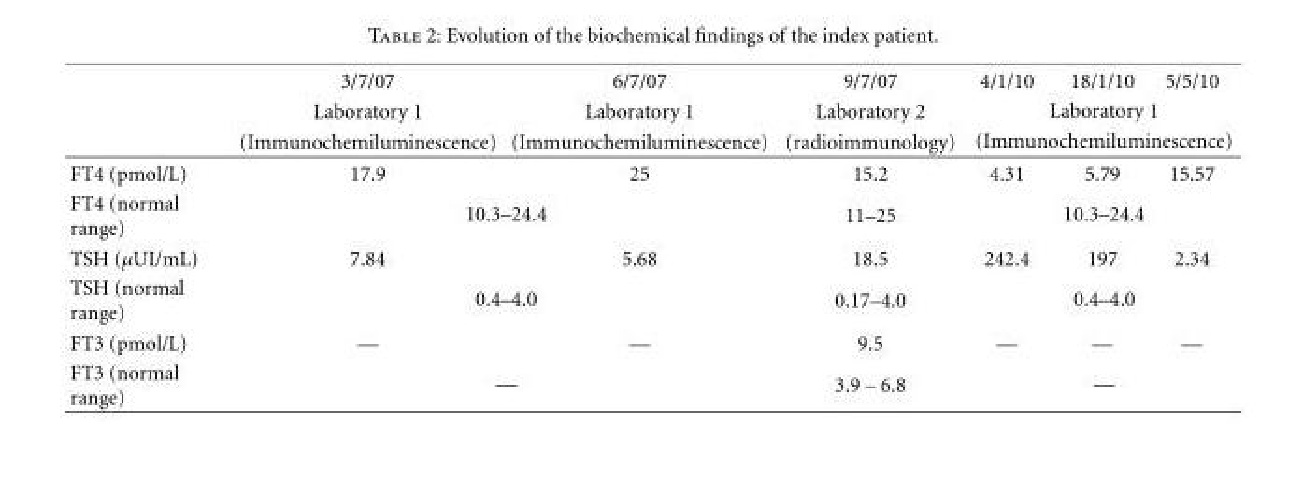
<table><thead><tr><td rowspan="3"></td><td rowspan="3">3/7/07 Laboratory 1 (Immunochemiluminescence)</td><td rowspan="3">6/7/07 Laboratory 1 (Immunochemiluminescence)</td><td rowspan="3">9/7/07 Laboratory 2 (radioimmunology)</td><td>4/1/10</td><td>18/1/10</td><td>5/5/10</td></tr><tr><td rowspan="2" colspan="3">Laboratory 1 (Immunochemiluminescence)</td></tr><tr></tr></thead><tbody><tr><td>FT4 (pmol/L)</td><td>17.9</td><td>25</td><td>15.2</td><td>4.31</td><td>5.79</td><td>15.57</td></tr><tr><td>FT4 (normal range)</td><td colspan="2">10.3–24.4</td><td>11–25</td><td colspan="3">10.3–24.4</td></tr><tr><td>TSH (μUI/mL)</td><td>7.84</td><td>5.68</td><td>18.5</td><td>242.4</td><td>197</td><td>2.34</td></tr><tr><td>TSH (normal range)</td><td colspan="2">0.4–4.0</td><td>0.17–4.0</td><td colspan="3">0.4–4.0</td></tr><tr><td>FT3 (pmol/L)</td><td>—</td><td>—</td><td>9.5</td><td>—</td><td>—</td><td>—</td></tr><tr><td>FT3 (normal range)</td><td colspan="2">—</td><td>3.9 – 6.8</td><td colspan="3">—</td></tr></tbody></table>